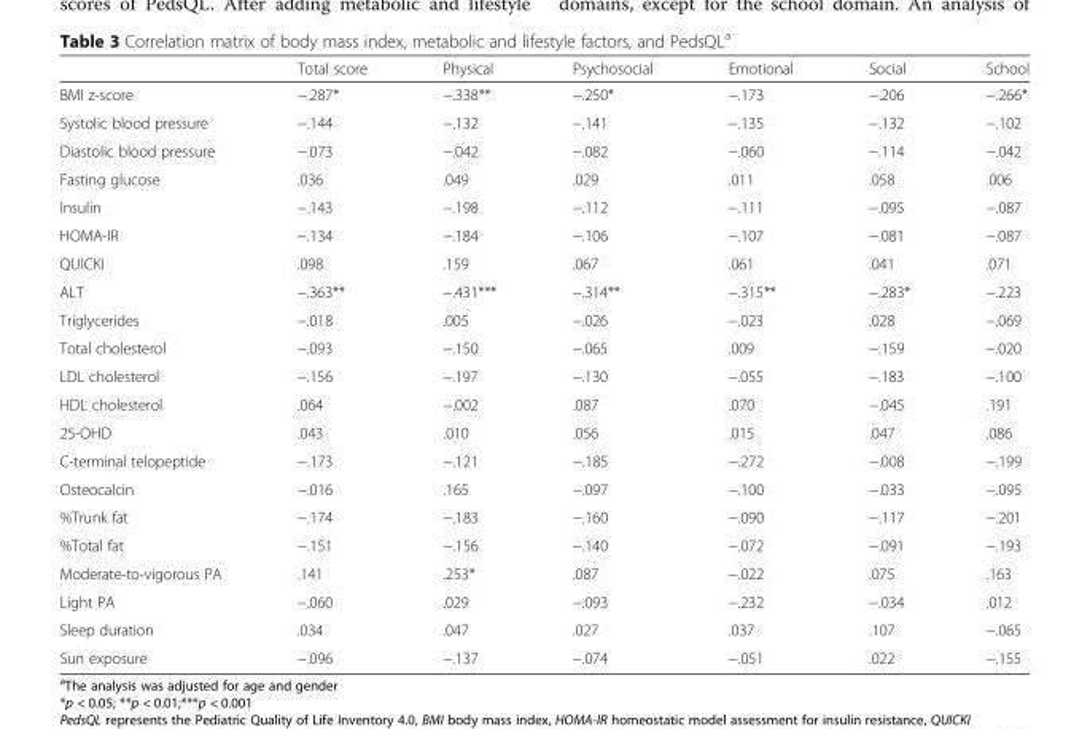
<table><thead><tr><td></td><td>Total score</td><td>Physical</td><td>Psychosocial</td><td>Emotional</td><td>Social</td><td>School</td></tr></thead><tbody><tr><td>BMI z-score</td><td>−.287*</td><td>−.338**</td><td>−.250*</td><td>−.173</td><td>−.206</td><td>−.266*</td></tr><tr><td>Systolic blood pressure</td><td>−.144</td><td>−.132</td><td>−.141</td><td>−.135</td><td>−.132</td><td>−.102</td></tr><tr><td>Diastolic blood pressure</td><td>−.073</td><td>−.042</td><td>−.082</td><td>−.060</td><td>−.114</td><td>−.042</td></tr><tr><td>Fasting glucose</td><td>.036</td><td>.049</td><td>.029</td><td>.011</td><td>.058</td><td>.006</td></tr><tr><td>Insulin</td><td>−.143</td><td>−.198</td><td>−.112</td><td>−.111</td><td>−.095</td><td>−.087</td></tr><tr><td>HOMA-IR</td><td>−.134</td><td>−.184</td><td>−.106</td><td>−.107</td><td>−.081</td><td>−.087</td></tr><tr><td>QUICKI</td><td>.098</td><td>.159</td><td>.067</td><td>.061</td><td>.041</td><td>.071</td></tr><tr><td>ALT</td><td>−.363**</td><td>−.431***</td><td>−.314**</td><td>−.315**</td><td>−.283*</td><td>−.223</td></tr><tr><td>Triglycerides</td><td>−.018</td><td>.005</td><td>−.026</td><td>−.023</td><td>.028</td><td>−.069</td></tr><tr><td>Total cholesterol</td><td>−.093</td><td>−.150</td><td>−.065</td><td>.009</td><td>−.159</td><td>−.020</td></tr><tr><td>LDL cholesterol</td><td>−.156</td><td>−.197</td><td>−.130</td><td>−.055</td><td>−.183</td><td>−.100</td></tr><tr><td>HDL cholesterol</td><td>.064</td><td>−.002</td><td>.087</td><td>.070</td><td>−.045</td><td>.191</td></tr><tr><td>25-OHD</td><td>.043</td><td>.010</td><td>.056</td><td>.015</td><td>.047</td><td>.086</td></tr><tr><td>C-terminal telopeptide</td><td>−.173</td><td>−.121</td><td>−.185</td><td>−.272</td><td>−.008</td><td>−.199</td></tr><tr><td>Osteocalcin</td><td>−.016</td><td>.165</td><td>−.097</td><td>−.100</td><td>−.033</td><td>−.095</td></tr><tr><td>%Trunk fat</td><td>−.174</td><td>−.183</td><td>−.160</td><td>−.090</td><td>−.117</td><td>−.201</td></tr><tr><td>%Total fat</td><td>−.151</td><td>−.156</td><td>−.140</td><td>−.072</td><td>−.091</td><td>−.193</td></tr><tr><td>Moderate-to-vigorous PA</td><td>.141</td><td>.253*</td><td>.087</td><td>−.022</td><td>.075</td><td>.163</td></tr><tr><td>Light PA</td><td>−.060</td><td>.029</td><td>−.093</td><td>−.232</td><td>−.034</td><td>.012</td></tr><tr><td>Sleep duration</td><td>.034</td><td>.047</td><td>.027</td><td>.037</td><td>.107</td><td>−.065</td></tr><tr><td>Sun exposure</td><td>−.096</td><td>−.137</td><td>−.074</td><td>−.051</td><td>.022</td><td>−.155</td></tr></tbody></table>